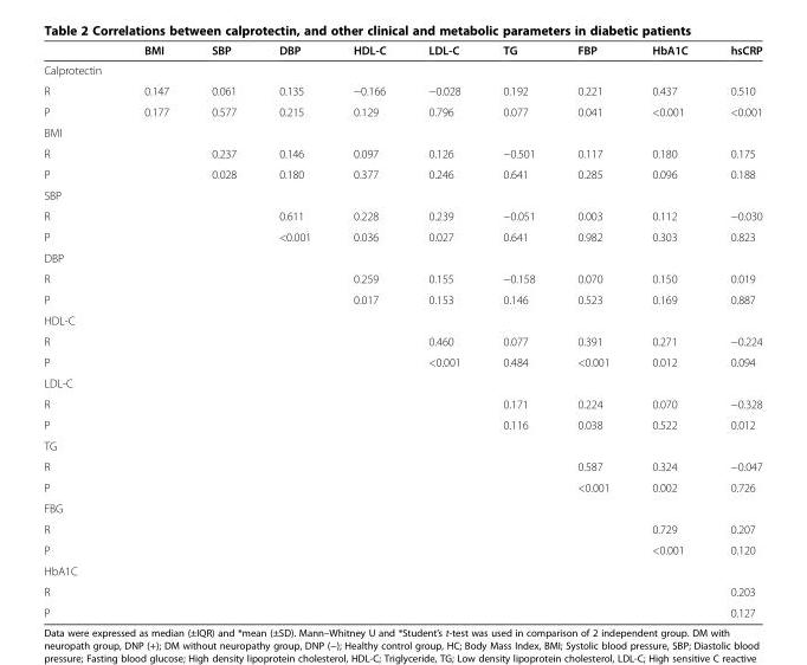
<table><thead><tr><td></td><td>BMI</td><td>SBP</td><td>DBP</td><td>HDL-C</td><td>LDL-C</td><td>TG</td><td>FBP</td><td>HbA1C</td><td>hsCRP</td></tr></thead><tbody><tr><td colspan="10">Calprotectin</td></tr><tr><td>R</td><td>0.147</td><td>0.061</td><td>0.135</td><td>−0.166</td><td>−0.028</td><td>0.192</td><td>0.221</td><td>0.437</td><td>0.510</td></tr><tr><td>P</td><td>0.177</td><td>0.577</td><td>0.215</td><td>0.129</td><td>0.796</td><td>0.077</td><td>0.041</td><td>&lt;0.001</td><td>&lt;0.001</td></tr><tr><td colspan="10">BMI</td></tr><tr><td>R</td><td></td><td>0.237</td><td>0.146</td><td>0.097</td><td>0.126</td><td>−0.501</td><td>0.117</td><td>0.180</td><td>0.175</td></tr><tr><td>P</td><td></td><td>0.028</td><td>0.180</td><td>0.377</td><td>0.246</td><td>0.641</td><td>0.285</td><td>0.096</td><td>0.188</td></tr><tr><td colspan="10">SBP</td></tr><tr><td>R</td><td></td><td></td><td>0.611</td><td>0.228</td><td>0.239</td><td>−0.051</td><td>0.003</td><td>0.112</td><td>−0.030</td></tr><tr><td>P</td><td></td><td></td><td>&lt;0.001</td><td>0.036</td><td>0.027</td><td>0.641</td><td>0.982</td><td>0.303</td><td>0.823</td></tr><tr><td colspan="10">DBP</td></tr><tr><td>R</td><td></td><td></td><td></td><td>0.259</td><td>0.155</td><td>−0.158</td><td>0.070</td><td>0.150</td><td>0.019</td></tr><tr><td>P</td><td></td><td></td><td></td><td>0.017</td><td>0.153</td><td>0.146</td><td>0.523</td><td>0.169</td><td>0.887</td></tr><tr><td colspan="10">HDL-C</td></tr><tr><td>R</td><td></td><td></td><td></td><td></td><td>0.460</td><td>0.077</td><td>0.391</td><td>0.271</td><td>−0.224</td></tr><tr><td>P</td><td></td><td></td><td></td><td></td><td>&lt;0.001</td><td>0.484</td><td>&lt;0.001</td><td>0.012</td><td>0.094</td></tr><tr><td colspan="10">LDL-C</td></tr><tr><td>R</td><td></td><td></td><td></td><td></td><td></td><td>0.171</td><td>0.224</td><td>0.070</td><td>−0.328</td></tr><tr><td>P</td><td></td><td></td><td></td><td></td><td></td><td>0.116</td><td>0.038</td><td>0.522</td><td>0.012</td></tr><tr><td colspan="10">TG</td></tr><tr><td>R</td><td></td><td></td><td></td><td></td><td></td><td></td><td>0.587</td><td>0.324</td><td>−0.047</td></tr><tr><td>P</td><td></td><td></td><td></td><td></td><td></td><td></td><td>&lt;0.001</td><td>0.002</td><td>0.726</td></tr><tr><td colspan="10">FBG</td></tr><tr><td>R</td><td></td><td></td><td></td><td></td><td></td><td></td><td></td><td>0.729</td><td>0.207</td></tr><tr><td>P</td><td></td><td></td><td></td><td></td><td></td><td></td><td></td><td>&lt;0.001</td><td>0.120</td></tr><tr><td colspan="10">HbA1C</td></tr><tr><td>R</td><td></td><td></td><td></td><td></td><td></td><td></td><td></td><td></td><td>0.203</td></tr><tr><td>P</td><td></td><td></td><td></td><td></td><td></td><td></td><td></td><td></td><td>0.127</td></tr></tbody></table>